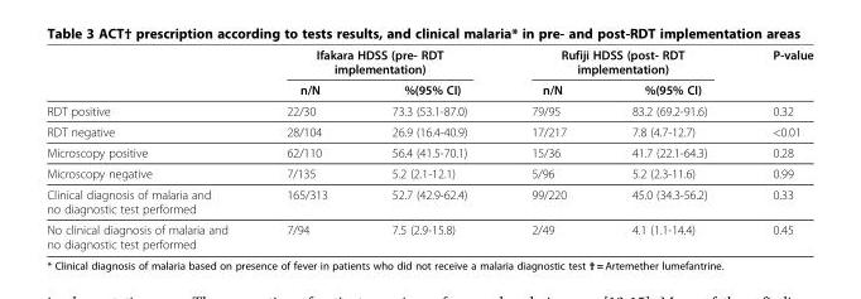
<table><thead><tr><td rowspan="2"></td><td colspan="2">Ifakara HDSS (pre- RDT implementation)</td><td colspan="2">Rufiji HDSS (post- RDT implementation)</td><td rowspan="2">P-value</td></tr><tr><td>n/N</td><td>%(95% CI)</td><td>n/N</td><td>%(95% CI)</td></tr></thead><tbody><tr><td>RDT positive</td><td>22/30</td><td>73.3 (53.1-87.0)</td><td>79/95</td><td>83.2 (69.2-91.6)</td><td>0.32</td></tr><tr><td>RDT negative</td><td>28/104</td><td>26.9 (16.4-40.9)</td><td>17/217</td><td>7.8 (4.7-12.7)</td><td>&lt;0.01</td></tr><tr><td>Microscopy positive</td><td>62/110</td><td>56.4 (41.5-70.1)</td><td>15/36</td><td>41.7 (22.1-64.3)</td><td>0.28</td></tr><tr><td>Microscopy negative</td><td>7/135</td><td>5.2 (2.1-12.1)</td><td>5/96</td><td>5.2 (2.3-11.6)</td><td>0.99</td></tr><tr><td>Clinical diagnosis of malaria and no diagnostic test performed</td><td>165/313</td><td>52.7 (42.9-62.4)</td><td>99/220</td><td>45.0 (34.3-56.2)</td><td>0.33</td></tr><tr><td>No clinical diagnosis of malaria and no diagnostic test performed</td><td>7/94</td><td>7.5 (2.9-15.8)</td><td>2/49</td><td>4.1 (1.1-14.4)</td><td>0.45</td></tr></tbody></table>